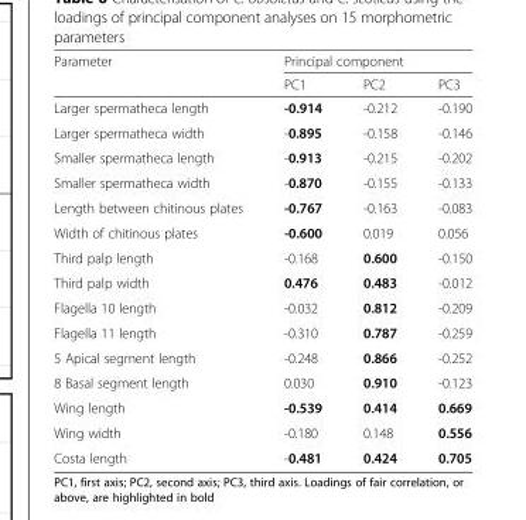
<table><thead><tr><td rowspan="2">Parameter</td><td colspan="3">Principal component</td></tr><tr><td>PC1</td><td>PC2</td><td>PC3</td></tr></thead><tbody><tr><td>Larger spermatheca length</td><td>-0.914</td><td>-0.212</td><td>-0.190</td></tr><tr><td>Larger spermatheca width</td><td>-0.895</td><td>-0.158</td><td>-0.146</td></tr><tr><td>Smaller spermatheca length</td><td>-0.913</td><td>-0.215</td><td>-0.202</td></tr><tr><td>Smaller spermatheca width</td><td>-0.870</td><td>-0.155</td><td>-0.133</td></tr><tr><td>Length between chitinous plates</td><td>-0.767</td><td>-0.163</td><td>-0.083</td></tr><tr><td>Width of chitinous plates</td><td>-0.600</td><td>0.019</td><td>0.056</td></tr><tr><td>Third palp length</td><td>-0.168</td><td>0.600</td><td>-0.150</td></tr><tr><td>Third palp width</td><td>0.476</td><td>0.483</td><td>-0.012</td></tr><tr><td>Flagella 10 length</td><td>-0.032</td><td>0.812</td><td>-0.209</td></tr><tr><td>Flagella 11 length</td><td>-0.310</td><td>0.787</td><td>-0.259</td></tr><tr><td>5 Apical segment length</td><td>-0.248</td><td>0.866</td><td>-0.252</td></tr><tr><td>8 Basal segment length</td><td>0.030</td><td>0.910</td><td>-0.123</td></tr><tr><td>Wing length</td><td>-0.539</td><td>0.414</td><td>0.669</td></tr><tr><td>Wing width</td><td>-0.180</td><td>0.148</td><td>0.556</td></tr><tr><td>Costa length</td><td>-0.481</td><td>0.424</td><td>0.705</td></tr></tbody></table>